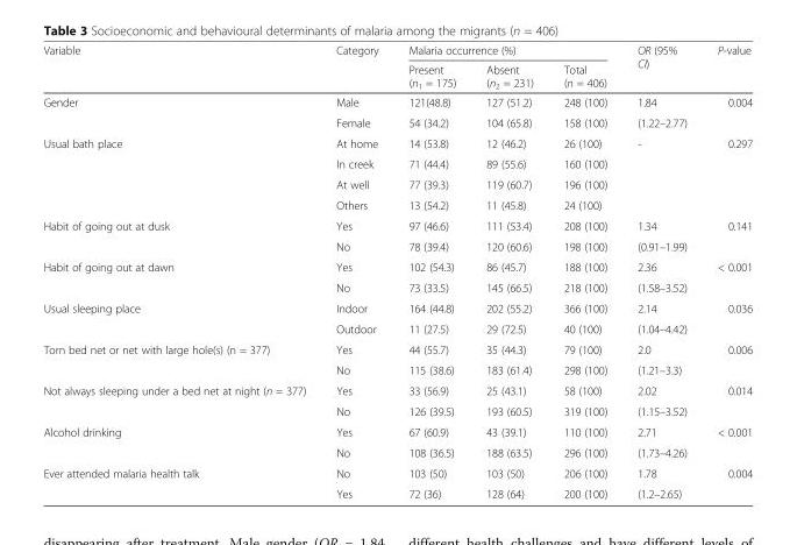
<table><thead><tr><td rowspan="2">Variable</td><td rowspan="2">Category</td><td colspan="3">Malaria occurrence (%)</td><td rowspan="2">OR (95% CI)</td><td rowspan="2">P-value</td></tr><tr><td>Present (n<sub>1</sub> = 175)</td><td>Absent (n<sub>2</sub> = 231)</td><td>Total (n = 406)</td></tr></thead><tbody><tr><td rowspan="2">Gender</td><td>Male</td><td>121(48.8)</td><td>127 (51.2)</td><td>248 (100)</td><td>1.84</td><td>0.004</td></tr><tr><td>Female</td><td>54 (34.2)</td><td>104 (65.8)</td><td>158 (100)</td><td>(1.22–2.77)</td><td></td></tr><tr><td rowspan="4">Usual bath place</td><td>At home</td><td>14 (53.8)</td><td>12 (46.2)</td><td>26 (100)</td><td>-</td><td>0.297</td></tr><tr><td>In creek</td><td>71 (44.4)</td><td>89 (55.6)</td><td>160 (100)</td><td></td><td></td></tr><tr><td>At well</td><td>77 (39.3)</td><td>119 (60.7)</td><td>196 (100)</td><td></td><td></td></tr><tr><td>Others</td><td>13 (54.2)</td><td>11 (45.8)</td><td>24 (100)</td><td></td><td></td></tr><tr><td rowspan="2">Habit of going out at dusk</td><td>Yes</td><td>97 (46.6)</td><td>111 (53.4)</td><td>208 (100)</td><td>1.34</td><td>0.141</td></tr><tr><td>No</td><td>78 (39.4)</td><td>120 (60.6)</td><td>198 (100)</td><td>(0.91–1.99)</td><td></td></tr><tr><td rowspan="2">Habit of going out at dawn</td><td>Yes</td><td>102 (54.3)</td><td>86 (45.7)</td><td>188 (100)</td><td>2.36</td><td>&lt; 0.001</td></tr><tr><td>No</td><td>73 (33.5)</td><td>145 (66.5)</td><td>218 (100)</td><td>(1.58–3.52)</td><td></td></tr><tr><td rowspan="2">Usual sleeping place</td><td>Indoor</td><td>164 (44.8)</td><td>202 (55.2)</td><td>366 (100)</td><td>2.14</td><td>0.036</td></tr><tr><td>Outdoor</td><td>11 (27.5)</td><td>29 (72.5)</td><td>40 (100)</td><td>(1.04–4.42)</td><td></td></tr><tr><td rowspan="2">Torn bed net or net with large hole(s) (n = 377)</td><td>Yes</td><td>44 (55.7)</td><td>35 (44.3)</td><td>79 (100)</td><td>2.0</td><td>0.006</td></tr><tr><td>No</td><td>115 (38.6)</td><td>183 (61.4)</td><td>298 (100)</td><td>(1.21–3.3)</td><td></td></tr><tr><td rowspan="2">Not always sleeping under a bed net at night (n = 377)</td><td>Yes</td><td>33 (56.9)</td><td>25 (43.1)</td><td>58 (100)</td><td>2.02</td><td>0.014</td></tr><tr><td>No</td><td>126 (39.5)</td><td>193 (60.5)</td><td>319 (100)</td><td>(1.15–3.52)</td><td></td></tr><tr><td rowspan="2">Alcohol drinking</td><td>Yes</td><td>67 (60.9)</td><td>43 (39.1)</td><td>110 (100)</td><td>2.71</td><td>&lt; 0.001</td></tr><tr><td>No</td><td>108 (36.5)</td><td>188 (63.5)</td><td>296 (100)</td><td>(1.73–4.26)</td><td></td></tr><tr><td rowspan="2">Ever attended malaria health talk</td><td>No</td><td>103 (50)</td><td>103 (50)</td><td>206 (100)</td><td>1.78</td><td>0.004</td></tr><tr><td>Yes</td><td>72 (36)</td><td>128 (64)</td><td>200 (100)</td><td>(1.2–2.65)</td><td></td></tr></tbody></table>